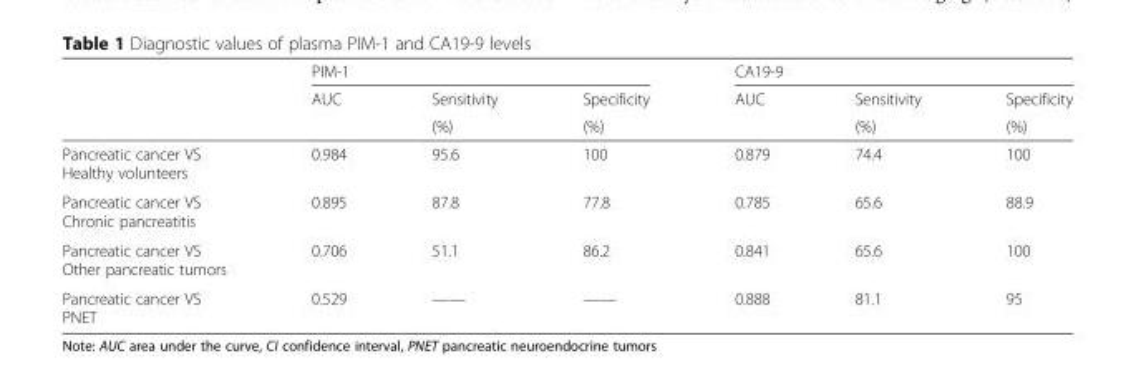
<table><thead><tr><td rowspan="3"></td><td colspan="3">PIM-1</td><td colspan="3">CA19-9</td></tr><tr><td rowspan="2">AUC</td><td rowspan="2">Sensitivity (%)</td><td rowspan="2">Specificity (%)</td><td rowspan="2">AUC</td><td rowspan="2">Sensitivity (%)</td><td rowspan="2">Specificity (%)</td></tr><tr></tr></thead><tbody><tr><td>Pancreatic cancer VS Healthy volunteers</td><td>0.984</td><td>95.6</td><td>100</td><td>0.879</td><td>74.4</td><td>100</td></tr><tr><td>Pancreatic cancer VS Chronic pancreatitis</td><td>0.895</td><td>87.8</td><td>77.8</td><td>0.785</td><td>65.6</td><td>88.9</td></tr><tr><td>Pancreatic cancer VS Other pancreatic tumors</td><td>0.706</td><td>51.1</td><td>86.2</td><td>0.841</td><td>65.6</td><td>100</td></tr><tr><td>Pancreatic cancer VS PNET</td><td>0.529</td><td>——</td><td>——</td><td>0.888</td><td>81.1</td><td>95</td></tr></tbody></table>